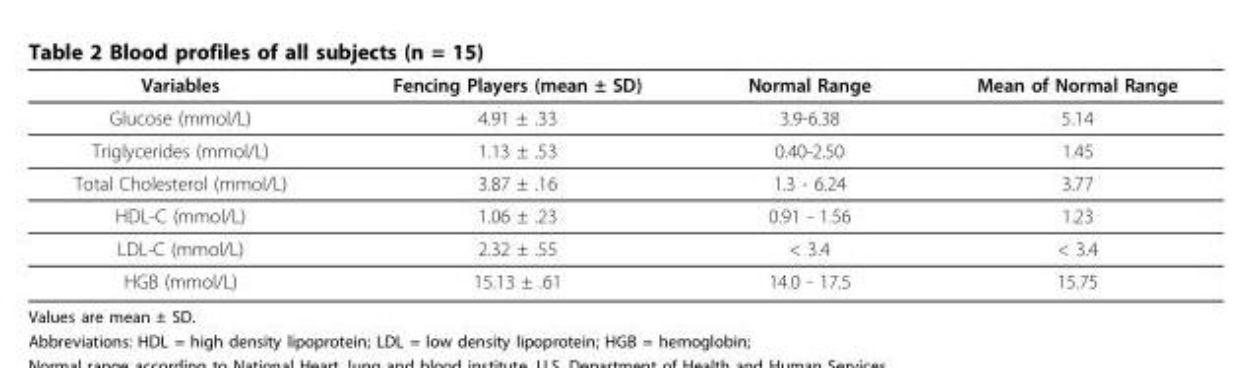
<table><thead><tr><td>Variables</td><td>Fencing Players (mean ± SD)</td><td>Normal Range</td><td>Mean of Normal Range</td></tr></thead><tbody><tr><td>Glucose (mmol/L)</td><td>4.91 ± .33</td><td>3.9-6.38</td><td>5.14</td></tr><tr><td>Triglycerides (mmol/L)</td><td>1.13 ± .53</td><td>0.40-2.50</td><td>1.45</td></tr><tr><td>Total Cholesterol (mmol/L)</td><td>3.87 ± .16</td><td>1.3 - 6.24</td><td>3.77</td></tr><tr><td>HDL-C (mmol/L)</td><td>1.06 ± .23</td><td>0.91 - 1.56</td><td>1.23</td></tr><tr><td>LDL-C (mmol/L)</td><td>2.32 ± .55</td><td>&lt; 3.4</td><td>&lt; 3.4</td></tr><tr><td>HGB (mmol/L)</td><td>15.13 ± .61</td><td>14.0 - 17.5</td><td>15.75</td></tr></tbody></table>